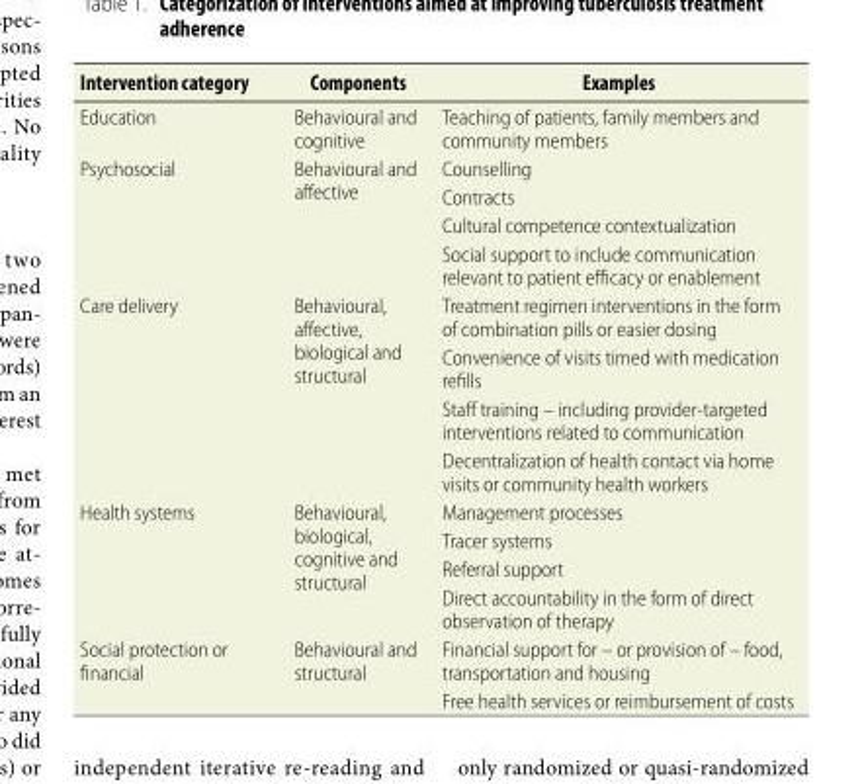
<table><thead><tr><td>Intervention category</td><td>Components</td><td>Examples</td></tr></thead><tbody><tr><td>Education</td><td>Behavioural and cognitive</td><td>Teaching of patients, family members and community members</td></tr><tr><td rowspan="4">Psychosocial</td><td rowspan="4">Behavioural and affective</td><td>Counselling</td></tr><tr><td>Contracts</td></tr><tr><td>Cultural competence contextualization</td></tr><tr><td>Social support to include communication relevant to patient efficacy or enablement</td></tr><tr><td rowspan="4">Care delivery</td><td rowspan="4">Behavioural, affective, biological and structural</td><td>Treatment regimen interventions in the form of combination pills or easier dosing</td></tr><tr><td>Convenience of visits timed with medication refills</td></tr><tr><td>Staff training – including provider-targeted interventions related to communication</td></tr><tr><td>Decentralization of health contact via home visits or community health workers</td></tr><tr><td rowspan="4">Health systems</td><td rowspan="4">Behavioural, biological, cognitive and structural</td><td>Management processes</td></tr><tr><td>Tracer systems</td></tr><tr><td>Referral support</td></tr><tr><td>Direct accountability in the form of direct observation of therapy</td></tr><tr><td rowspan="2">Social protection or financial</td><td rowspan="2">Behavioural and structural</td><td>Financial support for – or provision of – food, transportation and housing</td></tr><tr><td>Free health services or reimbursement of costs</td></tr></tbody></table>